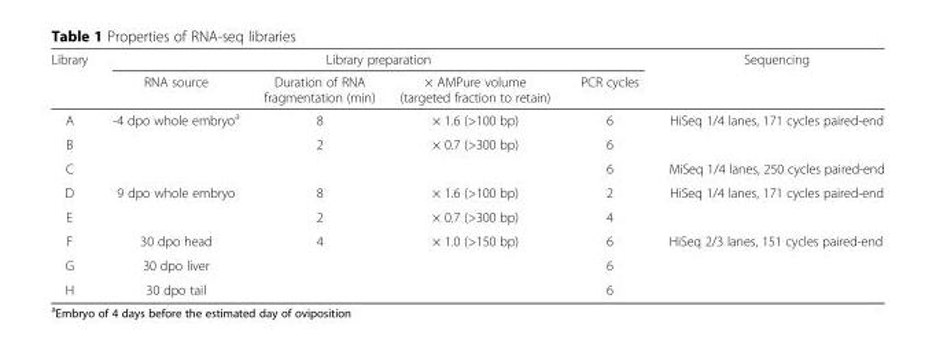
<table><thead><tr><td rowspan="2">Library</td><td colspan="4">Library preparation</td><td rowspan="2">Sequencing</td></tr><tr><td>RNA source</td><td>Duration of RNA fragmentation (min)</td><td>× AMPure volume (targeted fraction to retain)</td><td>PCR cycles</td></tr></thead><tbody><tr><td>A</td><td>-4 dpo whole embryo<sup>a</sup></td><td>8</td><td>× 1.6 (&gt;100 bp)</td><td>6</td><td rowspan="2">HiSeq 1/4 lanes, 171 cycles paired-end</td></tr><tr><td>B</td><td></td><td rowspan="2">2</td><td rowspan="2">× 0.7 (&gt;300 bp)</td><td>6</td></tr><tr><td>C</td><td></td><td>6</td><td>MiSeq 1/4 lanes, 250 cycles paired-end</td></tr><tr><td>D</td><td rowspan="2">9 dpo whole embryo</td><td>8</td><td>× 1.6 (&gt;100 bp)</td><td>2</td><td rowspan="2">HiSeq 1/4 lanes, 171 cycles paired-end</td></tr><tr><td>E</td><td>2</td><td>× 0.7 (&gt;300 bp)</td><td>4</td></tr><tr><td>F</td><td>30 dpo head</td><td>4</td><td>× 1.0 (&gt;150 bp)</td><td>6</td><td>HiSeq 2/3 lanes, 151 cycles paired-end</td></tr><tr><td>G</td><td>30 dpo liver</td><td></td><td></td><td>6</td><td></td></tr><tr><td>H</td><td>30 dpo tail</td><td></td><td></td><td>6</td><td></td></tr></tbody></table>